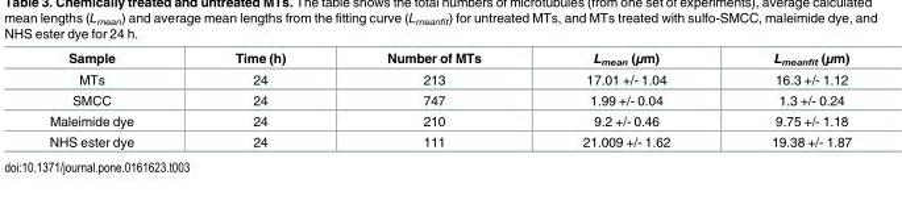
<table><thead><tr><td>Sample</td><td>Time (h)</td><td>Number of MTs</td><td>L<sub>mean</sub> (μm)</td><td>L<sub>meanfit</sub> (μm)</td></tr></thead><tbody><tr><td>MTs</td><td>24</td><td>213</td><td>17.01 +/- 1.04</td><td>16.3 +/- 1.12</td></tr><tr><td>SMCC</td><td>24</td><td>747</td><td>1.99 +/- 0.04</td><td>1.3 +/- 0.24</td></tr><tr><td>Maleimide dye</td><td>24</td><td>210</td><td>9.2 +/- 0.46</td><td>9.75 +/- 1.18</td></tr><tr><td>NHS ester dye</td><td>24</td><td>111</td><td>21.009 +/- 1.62</td><td>19.38 +/- 1.87</td></tr></tbody></table>